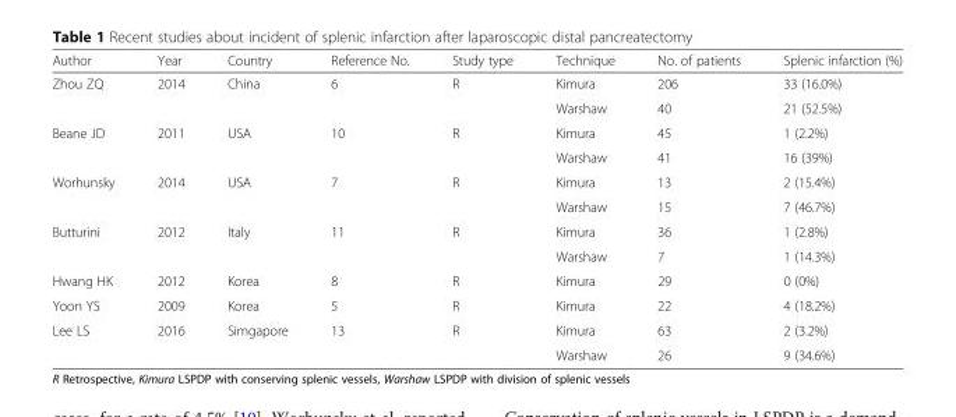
<table><thead><tr><td>Author</td><td>Year</td><td>Country</td><td>Reference No.</td><td>Study type</td><td>Technique</td><td>No. of patients</td><td>Splenic infarction (%)</td></tr></thead><tbody><tr><td rowspan="2">Zhou ZQ</td><td rowspan="2">2014</td><td rowspan="2">China</td><td rowspan="2">6</td><td rowspan="2">R</td><td>Kimura</td><td>206</td><td>33 (16.0%)</td></tr><tr><td>Warshaw</td><td>40</td><td>21 (52.5%)</td></tr><tr><td rowspan="2">Beane JD</td><td rowspan="2">2011</td><td rowspan="2">USA</td><td rowspan="2">10</td><td rowspan="2">R</td><td>Kimura</td><td>45</td><td>1 (2.2%)</td></tr><tr><td>Warshaw</td><td>41</td><td>16 (39%)</td></tr><tr><td rowspan="2">Worhunsky</td><td rowspan="2">2014</td><td rowspan="2">USA</td><td rowspan="2">7</td><td rowspan="2">R</td><td>Kimura</td><td>13</td><td>2 (15.4%)</td></tr><tr><td>Warshaw</td><td>15</td><td>7 (46.7%)</td></tr><tr><td rowspan="2">Butturini</td><td rowspan="2">2012</td><td rowspan="2">Italy</td><td rowspan="2">11</td><td rowspan="2">R</td><td>Kimura</td><td>36</td><td>1 (2.8%)</td></tr><tr><td>Warshaw</td><td>7</td><td>1 (14.3%)</td></tr><tr><td>Hwang HK</td><td>2012</td><td>Korea</td><td>8</td><td>R</td><td>Kimura</td><td>29</td><td>0 (0%)</td></tr><tr><td>Yoon YS</td><td>2009</td><td>Korea</td><td>5</td><td>R</td><td>Kimura</td><td>22</td><td>4 (18.2%)</td></tr><tr><td rowspan="2">Lee LS</td><td rowspan="2">2016</td><td rowspan="2">Simgapore</td><td rowspan="2">13</td><td rowspan="2">R</td><td>Kimura</td><td>63</td><td>2 (3.2%)</td></tr><tr><td>Warshaw</td><td>26</td><td>9 (34.6%)</td></tr></tbody></table>